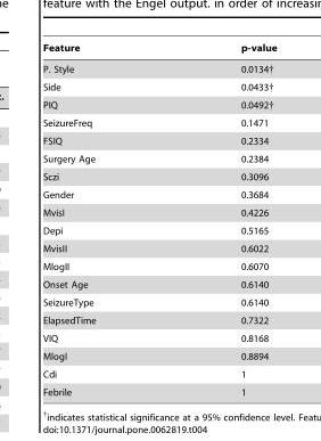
<table><thead><tr><td>Feature</td><td>p-value</td></tr></thead><tbody><tr><td>P. Style</td><td>0.0134†</td></tr><tr><td>Side</td><td>0.0433†</td></tr><tr><td>PIQ</td><td>0.0492†</td></tr><tr><td>SeizureFreq</td><td>0.1471</td></tr><tr><td>FSIQ</td><td>0.2334</td></tr><tr><td>Surgery Age</td><td>0.2384</td></tr><tr><td>Sczi</td><td>0.3096</td></tr><tr><td>Gender</td><td>0.3684</td></tr><tr><td>MvisI</td><td>0.4226</td></tr><tr><td>Depi</td><td>0.5165</td></tr><tr><td>MvisII</td><td>0.6022</td></tr><tr><td>MlogII</td><td>0.6070</td></tr><tr><td>Onset Age</td><td>0.6140</td></tr><tr><td>SeizureType</td><td>0.6140</td></tr><tr><td>ElapsedTime</td><td>0.7322</td></tr><tr><td>VIQ</td><td>0.8168</td></tr><tr><td>MlogI</td><td>0.8894</td></tr><tr><td>Cdi</td><td>1</td></tr><tr><td>Febrile</td><td>1</td></tr></tbody></table>